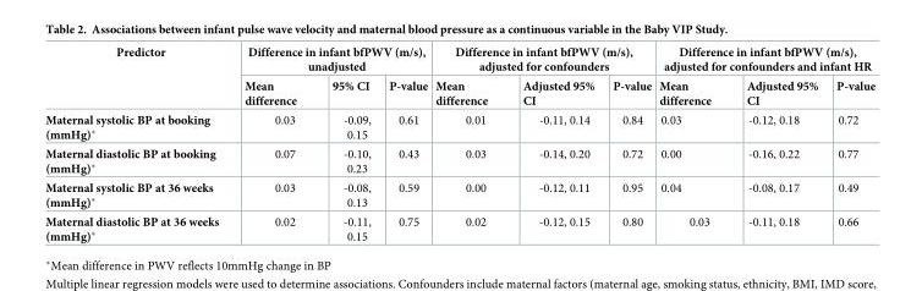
<table><thead><tr><td rowspan="2">Predictor</td><td colspan="3">Difference in infant bfPWV (m/s), unadjusted</td><td colspan="3">Difference in infant bfPWV (m/s), adjusted for confounders</td><td colspan="3">Difference in infant bfPWV (m/s), adjusted for confounders and infant HR</td></tr><tr><td>Mean difference</td><td>95% CI</td><td>P-value</td><td>Mean difference</td><td>Adjusted 95% CI</td><td>P-value</td><td>Mean difference</td><td>Adjusted 95% CI</td><td>P-value</td></tr></thead><tbody><tr><td>Maternal systolic BP at booking (mmHg)*</td><td>0.03</td><td>-0.09, 0.15</td><td>0.61</td><td>0.01</td><td>-0.11, 0.14</td><td>0.84</td><td>0.03</td><td>-0.12, 0.18</td><td>0.72</td></tr><tr><td>Maternal diastolic BP at booking (mmHg)*</td><td>0.07</td><td>-0.10, 0.23</td><td>0.43</td><td>0.03</td><td>-0.14, 0.20</td><td>0.72</td><td>0.00</td><td>-0.16, 0.22</td><td>0.77</td></tr><tr><td>Maternal systolic BP at 36 weeks (mmHg)*</td><td>0.03</td><td>-0.08, 0.13</td><td>0.59</td><td>0.00</td><td>-0.12, 0.11</td><td>0.95</td><td>0.04</td><td>-0.08, 0.17</td><td>0.49</td></tr><tr><td>Maternal diastolic BP at 36 weeks (mmHg)*</td><td>0.02</td><td>-0.11, 0.15</td><td>0.75</td><td>0.02</td><td>-0.12, 0.15</td><td>0.80</td><td>0.03</td><td>-0.11, 0.18</td><td>0.66</td></tr></tbody></table>